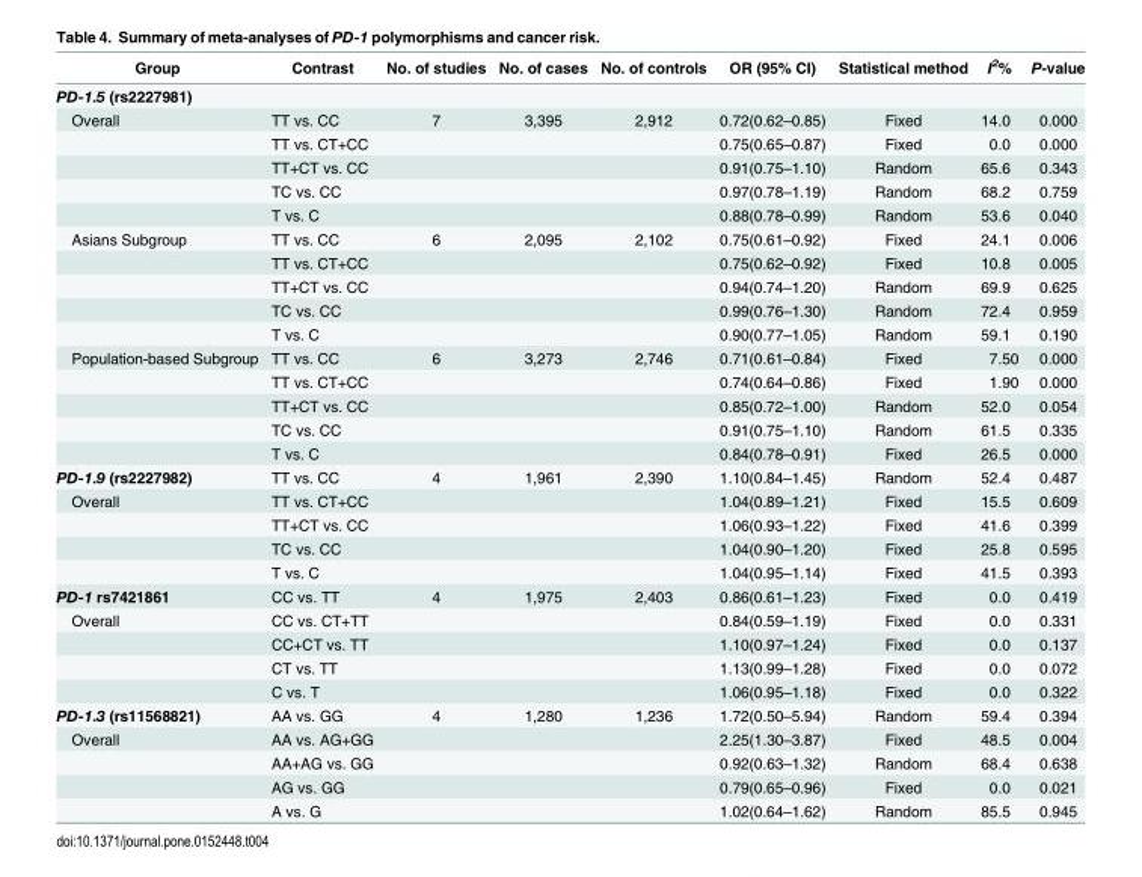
<table><thead><tr><td>Group</td><td>Contrast</td><td>No. of studies</td><td>No. of cases</td><td>No. of controls</td><td>OR (95% CI)</td><td>Statistical method</td><td>I<sup>2</sup>%</td><td>P-value</td></tr></thead><tbody><tr><td colspan="9">PD-1.5 (rs2227981)</td></tr><tr><td rowspan="5">Overall</td><td>TT vs. CC</td><td>7</td><td>3,395</td><td>2,912</td><td>0.72(0.62–0.85)</td><td>Fixed</td><td>14.0</td><td>0.000</td></tr><tr><td>TT vs. CT+CC</td><td></td><td></td><td></td><td>0.75(0.65–0.87)</td><td>Fixed</td><td>0.0</td><td>0.000</td></tr><tr><td>TT+CT vs. CC</td><td></td><td></td><td></td><td>0.91(0.75–1.10)</td><td>Random</td><td>65.6</td><td>0.343</td></tr><tr><td>TC vs. CC</td><td></td><td></td><td></td><td>0.97(0.78–1.19)</td><td>Random</td><td>68.2</td><td>0.759</td></tr><tr><td>T vs. C</td><td></td><td></td><td></td><td>0.88(0.78–0.99)</td><td>Random</td><td>53.6</td><td>0.040</td></tr><tr><td rowspan="5">Asians Subgroup</td><td>TT vs. CC</td><td>6</td><td>2,095</td><td>2,102</td><td>0.75(0.61–0.92)</td><td>Fixed</td><td>24.1</td><td>0.006</td></tr><tr><td>TT vs. CT+CC</td><td></td><td></td><td></td><td>0.75(0.62–0.92)</td><td>Fixed</td><td>10.8</td><td>0.005</td></tr><tr><td>TT+CT vs. CC</td><td></td><td></td><td></td><td>0.94(0.74–1.20)</td><td>Random</td><td>69.9</td><td>0.625</td></tr><tr><td>TC vs. CC</td><td></td><td></td><td></td><td>0.99(0.76–1.30)</td><td>Random</td><td>72.4</td><td>0.959</td></tr><tr><td>T vs. C</td><td></td><td></td><td></td><td>0.90(0.77–1.05)</td><td>Random</td><td>59.1</td><td>0.190</td></tr><tr><td rowspan="5">Population-based Subgroup</td><td>TT vs. CC</td><td>6</td><td>3,273</td><td>2,746</td><td>0.71(0.61–0.84)</td><td>Fixed</td><td>7.50</td><td>0.000</td></tr><tr><td>TT vs. CT+CC</td><td></td><td></td><td></td><td>0.74(0.64–0.86)</td><td>Fixed</td><td>1.90</td><td>0.000</td></tr><tr><td>TT+CT vs. CC</td><td></td><td></td><td></td><td>0.85(0.72–1.00)</td><td>Random</td><td>52.0</td><td>0.054</td></tr><tr><td>TC vs. CC</td><td></td><td></td><td></td><td>0.91(0.75–1.10)</td><td>Random</td><td>61.5</td><td>0.335</td></tr><tr><td>T vs. C</td><td></td><td></td><td></td><td>0.84(0.78–0.91)</td><td>Fixed</td><td>26.5</td><td>0.000</td></tr><tr><td>PD-1.9 (rs2227982)</td><td>TT vs. CC</td><td>4</td><td>1,961</td><td>2,390</td><td>1.10(0.84–1.45)</td><td>Random</td><td>52.4</td><td>0.487</td></tr><tr><td rowspan="4">Overall</td><td>TT vs. CT+CC</td><td></td><td></td><td></td><td>1.04(0.89–1.21)</td><td>Fixed</td><td>15.5</td><td>0.609</td></tr><tr><td>TT+CT vs. CC</td><td></td><td></td><td></td><td>1.06(0.93–1.22)</td><td>Fixed</td><td>41.6</td><td>0.399</td></tr><tr><td>TC vs. CC</td><td></td><td></td><td></td><td>1.04(0.90–1.20)</td><td>Fixed</td><td>25.8</td><td>0.595</td></tr><tr><td>T vs. C</td><td></td><td></td><td></td><td>1.04(0.95–1.14)</td><td>Fixed</td><td>41.5</td><td>0.393</td></tr><tr><td>PD-1 rs7421861</td><td>CC vs. TT</td><td>4</td><td>1,975</td><td>2,403</td><td>0.86(0.61–1.23)</td><td>Fixed</td><td>0.0</td><td>0.419</td></tr><tr><td rowspan="4">Overall</td><td>CC vs. CT+TT</td><td></td><td></td><td></td><td>0.84(0.59–1.19)</td><td>Fixed</td><td>0.0</td><td>0.331</td></tr><tr><td>CC+CT vs. TT</td><td></td><td></td><td></td><td>1.10(0.97–1.24)</td><td>Fixed</td><td>0.0</td><td>0.137</td></tr><tr><td>CT vs. TT</td><td></td><td></td><td></td><td>1.13(0.99–1.28)</td><td>Fixed</td><td>0.0</td><td>0.072</td></tr><tr><td>C vs. T</td><td></td><td></td><td></td><td>1.06(0.95–1.18)</td><td>Fixed</td><td>0.0</td><td>0.322</td></tr><tr><td>PD-1.3 (rs11568821)</td><td>AA vs. GG</td><td>4</td><td>1,280</td><td>1,236</td><td>1.72(0.50–5.94)</td><td>Random</td><td>59.4</td><td>0.394</td></tr><tr><td rowspan="4">Overall</td><td>AA vs. AG+GG</td><td></td><td></td><td></td><td>2.25(1.30–3.87)</td><td>Fixed</td><td>48.5</td><td>0.004</td></tr><tr><td>AA+AG vs. GG</td><td></td><td></td><td></td><td>0.92(0.63–1.32)</td><td>Random</td><td>68.4</td><td>0.638</td></tr><tr><td>AG vs. GG</td><td></td><td></td><td></td><td>0.79(0.65–0.96)</td><td>Fixed</td><td>0.0</td><td>0.021</td></tr><tr><td>A vs. G</td><td></td><td></td><td></td><td>1.02(0.64–1.62)</td><td>Random</td><td>85.5</td><td>0.945</td></tr></tbody></table>